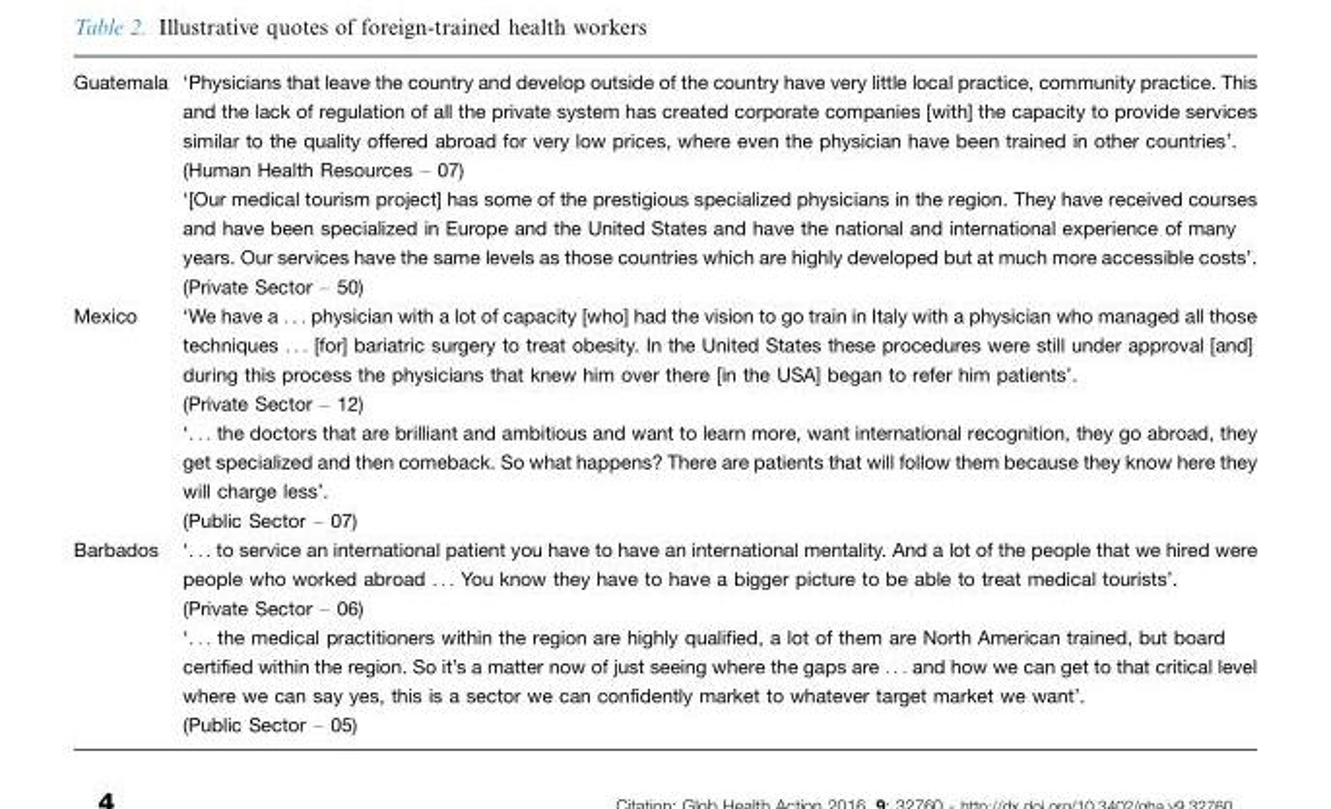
<table><tbody><tr><td>Guatemala</td><td>‘Physicians that leave the country and develop outside of the country have very little local practice, community practice. This and the lack of regulation of all the private system has created corporate companies [with] the capacity to provide services similar to the quality offered abroad for very low prices, where even the physician have been trained in other countries’. (Human Health Resources – 07) ‘[Our medical tourism project] has some of the prestigious specialized physicians in the region. They have received courses and have been specialized in Europe and the United States and have the national and international experience of many years. Our services have the same levels as those countries which are highly developed but at much more accessible costs’. (Private Sector – 50)</td></tr><tr><td>Mexico</td><td>‘We have a . . . physician with a lot of capacity [who] had the vision to go train in Italy with a physician who managed all those techniques . . . [for] bariatric surgery to treat obesity. In the United States these procedures were still under approval [and] during this process the physicians that knew him over there [in the USA] began to refer him patients’. (Private Sector � 12) ‘. . . the doctors that are brilliant and ambitious and want to learn more, want international recognition, they go abroad, they get specialized and then comeback. So what happens? There are patients that will follow them because they know here they will charge less’. (Public Sector � 07)</td></tr><tr><td>Barbados</td><td>‘. . . to service an international patient you have to have an international mentality. And a lot of the people that we hired were people who worked abroad . . . You know they have to have a bigger picture to be able to treat medical tourists’. (Private Sector � 06) ‘. . . the medical practitioners within the region are highly qualified, a lot of them are North American trained, but board certified within the region. So it’s a matter now of just seeing where the gaps are . . . and how we can get to that critical level where we can say yes, this is a sector we can confidently market to whatever target market we want’. (Public Sector � 05)</td></tr></tbody></table>